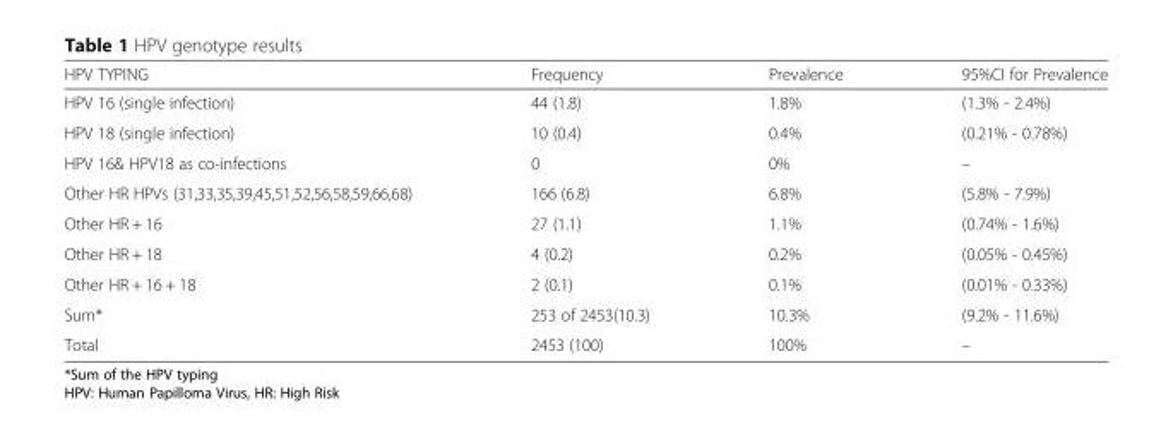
<table><thead><tr><td>HPV TYPING</td><td>Frequency</td><td>Prevalence</td><td>95%CI for Prevalence</td></tr></thead><tbody><tr><td>HPV 16 (single infection)</td><td>44 (1.8)</td><td>1.8%</td><td>(1.3% - 2.4%)</td></tr><tr><td>HPV 18 (single infection)</td><td>10 (0.4)</td><td>0.4%</td><td>(0.21% - 0.78%)</td></tr><tr><td>HPV 16&amp; HPV18 as co-infections</td><td>0</td><td>0%</td><td>–</td></tr><tr><td>Other HR HPVs (31,33,35,39,45,51,52,56,58,59,66,68)</td><td>166 (6.8)</td><td>6.8%</td><td>(5.8% - 7.9%)</td></tr><tr><td>Other HR + 16</td><td>27 (1.1)</td><td>1.1%</td><td>(0.74% - 1.6%)</td></tr><tr><td>Other HR + 18</td><td>4 (0.2)</td><td>0.2%</td><td>(0.05% - 0.45%)</td></tr><tr><td>Other HR + 16 + 18</td><td>2 (0.1)</td><td>0.1%</td><td>(0.01% - 0.33%)</td></tr><tr><td>Sum*</td><td>253 of 2453(10.3)</td><td>10.3%</td><td>(9.2% - 11.6%)</td></tr><tr><td>Total</td><td>2453 (100)</td><td>100%</td><td>–</td></tr></tbody></table>